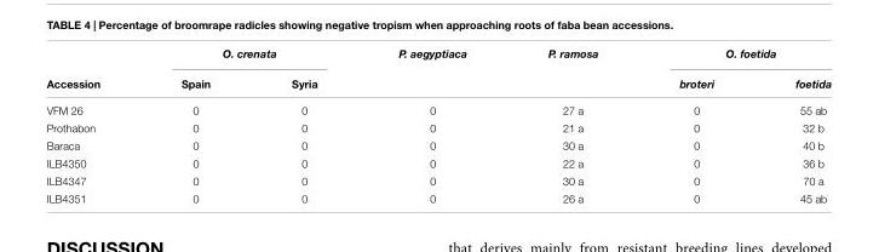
<table><thead><tr><td rowspan="2">Accession</td><td colspan="2">O. crenata</td><td rowspan="2">P. aegyptiaca</td><td rowspan="2">P. ramosa</td><td colspan="2">O. foetida</td></tr><tr><td>Spain</td><td>Syria</td><td>broteri</td><td>foetida</td></tr></thead><tbody><tr><td>VFM 26</td><td>0</td><td>0</td><td>0</td><td>27 a</td><td>0</td><td>55 ab</td></tr><tr><td>Prothabon</td><td>0</td><td>0</td><td>0</td><td>21 a</td><td>0</td><td>32 b</td></tr><tr><td>Baraca</td><td>0</td><td>0</td><td>0</td><td>30 a</td><td>0</td><td>40 b</td></tr><tr><td>ILB4350</td><td>0</td><td>0</td><td>0</td><td>22 a</td><td>0</td><td>36 b</td></tr><tr><td>ILB4347</td><td>0</td><td>0</td><td>0</td><td>30 a</td><td>0</td><td>70 a</td></tr><tr><td>ILB4351</td><td>0</td><td>0</td><td>0</td><td>26 a</td><td>0</td><td>45 ab</td></tr></tbody></table>